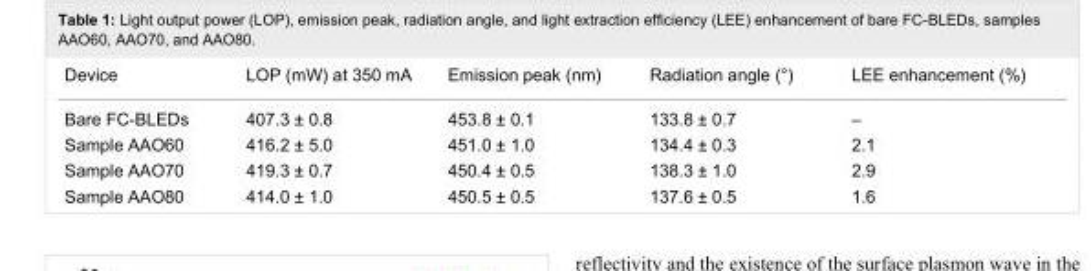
<table><tbody><tr><td>Device</td><td>LOP (mW) at 350 mA</td><td>Emission peak (nm)</td><td>Radiation angle (°)</td><td>LEE enhancement (%)</td></tr><tr><td>Bare FC-BLEDs</td><td>407.3 ± 0.8</td><td>453.8 ± 0.1</td><td>133.8 ± 0.7</td><td>–</td></tr><tr><td>Sample AAO60</td><td>416.2 ± 5.0</td><td>451.0 ± 1.0</td><td>134.4 ± 0.3</td><td>2.1</td></tr><tr><td>Sample AAO70</td><td>419.3 ± 0.7</td><td>450.4 ± 0.5</td><td>138.3 ± 1.0</td><td>2.9</td></tr><tr><td>Sample AAO80</td><td>414.0 ± 1.0</td><td>450.5 ± 0.5</td><td>137.6 ± 0.5</td><td>1.6</td></tr></tbody></table>